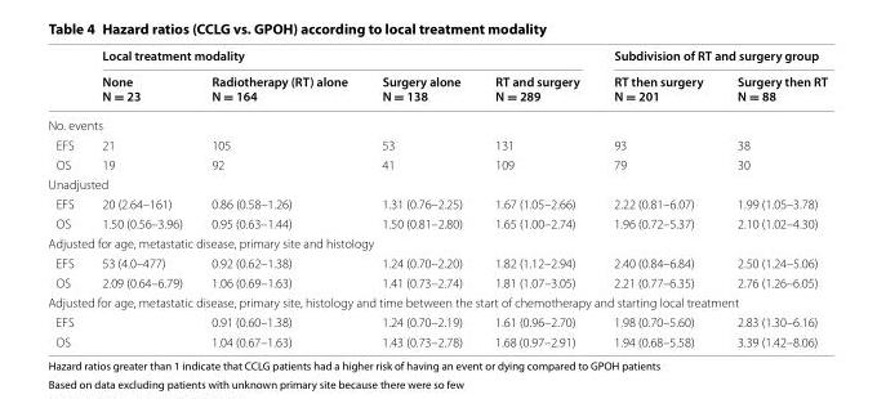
<table><thead><tr><td rowspan="2"></td><td colspan="4">Local treatment modality</td><td colspan="2">Subdivision of RT and surgery group</td></tr><tr><td>None N = 23</td><td>Radiotherapy (RT) alone N = 164</td><td>Surgery alone N = 138</td><td>RT and surgery N = 289</td><td>RT then surgery N = 201</td><td>Surgery then RT N = 88</td></tr></thead><tbody><tr><td colspan="7">No. events</td></tr><tr><td>EFS</td><td>21</td><td>105</td><td>53</td><td>131</td><td>93</td><td>38</td></tr><tr><td>OS</td><td>19</td><td>92</td><td>41</td><td>109</td><td>79</td><td>30</td></tr><tr><td colspan="7">Unadjusted</td></tr><tr><td>EFS</td><td>20 (2.64–161)</td><td>0.86 (0.58–1.26)</td><td>1.31 (0.76–2.25)</td><td>1.67 (1.05–2.66)</td><td>2.22 (0.81–6.07)</td><td>1.99 (1.05–3.78)</td></tr><tr><td>OS</td><td>1.50 (0.56–3.96)</td><td>0.95 (0.63–1.44)</td><td>1.50 (0.81–2.80)</td><td>1.65 (1.00–2.74)</td><td>1.96 (0.72–5.37)</td><td>2.10 (1.02–4.30)</td></tr><tr><td colspan="7">Adjusted for age, metastatic disease, primary site and histology</td></tr><tr><td>EFS</td><td>53 (4.0–477)</td><td>0.92 (0.62–1.38)</td><td>1.24 (0.70–2.20)</td><td>1.82 (1.12–2.94)</td><td>2.40 (0.84–6.84)</td><td>2.50 (1.24–5.06)</td></tr><tr><td>OS</td><td>2.09 (0.64–6.79)</td><td>1.06 (0.69–1.63)</td><td>1.41 (0.73–2.74)</td><td>1.81 (1.07–3.05)</td><td>2.21 (0.77–6.35)</td><td>2.76 (1.26–6.05)</td></tr><tr><td colspan="7">Adjusted for age, metastatic disease, primary site, histology and time between the start of chemotherapy and starting local treatment</td></tr><tr><td>EFS</td><td></td><td>0.91 (0.60–1.38)</td><td>1.24 (0.70–2.19)</td><td>1.61 (0.96–2.70)</td><td>1.98 (0.70–5.60)</td><td>2.83 (1.30–6.16)</td></tr><tr><td>OS</td><td></td><td>1.04 (0.67–1.63)</td><td>1.43 (0.73–2.78)</td><td>1.68 (0.97–2.91)</td><td>1.94 (0.68–5.58)</td><td>3.39 (1.42–8.06)</td></tr></tbody></table>